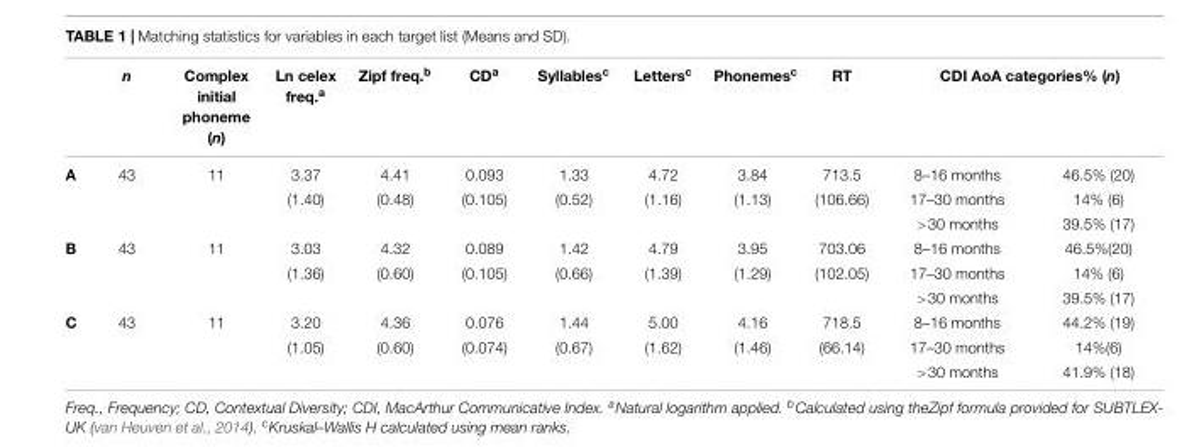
<table><thead><tr><td rowspan="2">A</td><td rowspan="2">n 43</td><td rowspan="2">Complex initial phoneme (n) 11</td><td rowspan="2">Ln celex freq.<sup>a</sup> 3.37</td><td rowspan="2">Zipf freq.<sup>b</sup> 4.41</td><td rowspan="2">CD<sup>a</sup> 0.093</td><td rowspan="2">Syllables<sup>c</sup> 1.33</td><td rowspan="2">Letters<sup>c</sup> 4.72</td><td rowspan="2">Phonemes<sup>c</sup> 3.84</td><td rowspan="2">RT 713.5</td><td colspan="2">CDI AoA categories% (n)</td></tr><tr><td>8–16 months</td><td>46.5% (20)</td></tr></thead><tbody><tr><td></td><td></td><td></td><td>(1.40)</td><td>(0.48)</td><td>(0.105)</td><td>(0.52)</td><td>(1.16)</td><td>(1.13)</td><td>(106.66)</td><td>17–30 months</td><td>14% (6)</td></tr><tr><td></td><td></td><td></td><td></td><td></td><td></td><td></td><td></td><td></td><td></td><td>&gt;30 months</td><td>39.5% (17)</td></tr><tr><td rowspan="3">B</td><td>43</td><td>11</td><td>3.03</td><td>4.32</td><td>0.089</td><td>1.42</td><td>4.79</td><td>3.95</td><td>703.06</td><td>8–16 months</td><td>46.5%(20)</td></tr><tr><td></td><td></td><td>(1.36)</td><td>(0.60)</td><td>(0.105)</td><td>(0.66)</td><td>(1.39)</td><td>(1.29)</td><td>(102.05)</td><td>17–30 months</td><td>14% (6)</td></tr><tr><td></td><td></td><td></td><td></td><td></td><td></td><td></td><td></td><td></td><td>&gt;30 months</td><td>39.5% (17)</td></tr><tr><td rowspan="3">C</td><td>43</td><td>11</td><td>3.20</td><td>4.36</td><td>0.076</td><td>1.44</td><td>5.00</td><td>4.16</td><td>718.5</td><td>8–16 months</td><td>44.2% (19)</td></tr><tr><td></td><td></td><td>(1.05)</td><td>(0.60)</td><td>(0.074)</td><td>(0.67)</td><td>(1.62)</td><td>(1.46)</td><td>(66.14)</td><td>17–30 months</td><td>14%(6)</td></tr><tr><td></td><td></td><td></td><td></td><td></td><td></td><td></td><td></td><td></td><td>&gt;30 months</td><td>41.9% (18)</td></tr></tbody></table>